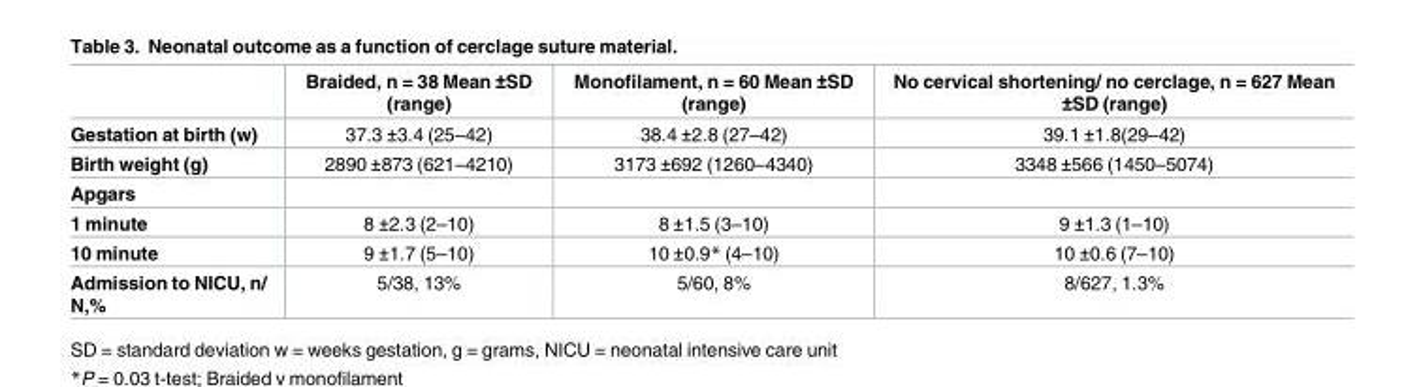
<table><thead><tr><td></td><td>Braided, n = 38 Mean ±SD (range)</td><td>Monofilament, n = 60 Mean ±SD (range)</td><td>No cervical shortening/ no cerclage, n = 627 Mean ±SD (range)</td></tr></thead><tbody><tr><td>Gestation at birth (w)</td><td>37.3 ±3.4 (25–42)</td><td>38.4 ±2.8 (27–42)</td><td>39.1 ±1.8(29–42)</td></tr><tr><td>Birth weight (g)</td><td>2890 ±873 (621–4210)</td><td>3173 ±692 (1260–4340)</td><td>3348 ±566 (1450–5074)</td></tr><tr><td colspan="4">Apgars</td></tr><tr><td>1 minute</td><td>8 ±2.3 (2–10)</td><td>8 ±1.5 (3–10)</td><td>9 ±1.3 (1–10)</td></tr><tr><td>10 minute</td><td>9 ±1.7 (5–10)</td><td>10 ±0.9* (4–10)</td><td>10 ±0.6 (7–10)</td></tr><tr><td>Admission to NICU, n/ N,%</td><td>5/38, 13%</td><td>5/60, 8%</td><td>8/627, 1.3%</td></tr></tbody></table>